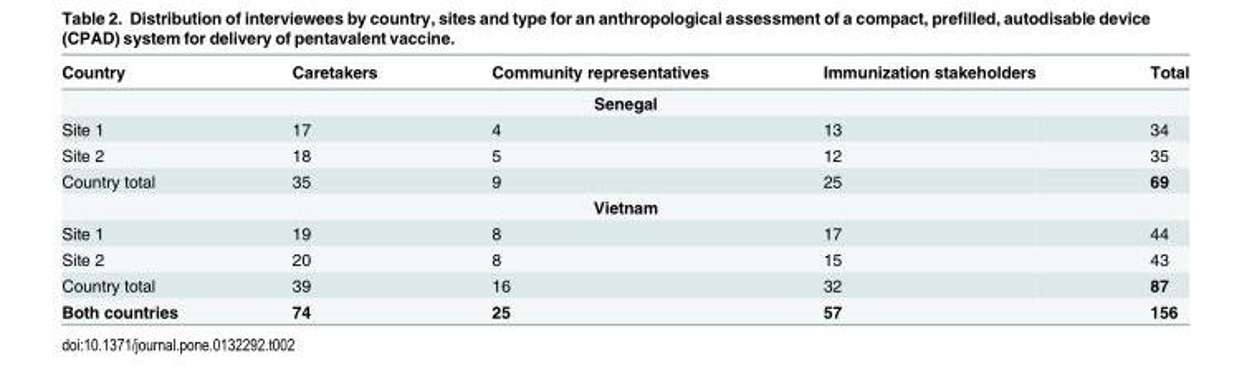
<table><thead><tr><td>Country</td><td>Caretakers</td><td>Community representatives</td><td>Immunization stakeholders</td><td>Total</td></tr></thead><tbody><tr><td colspan="5">Senegal</td></tr><tr><td>Site 1</td><td>17</td><td>4</td><td>13</td><td>34</td></tr><tr><td>Site 2</td><td>18</td><td>5</td><td>12</td><td>35</td></tr><tr><td>Country total</td><td>35</td><td>9</td><td>25</td><td>69</td></tr><tr><td colspan="5">Vietnam</td></tr><tr><td>Site 1</td><td>19</td><td>8</td><td>17</td><td>44</td></tr><tr><td>Site 2</td><td>20</td><td>8</td><td>15</td><td>43</td></tr><tr><td>Country total</td><td>39</td><td>16</td><td>32</td><td>87</td></tr><tr><td>Both countries</td><td>74</td><td>25</td><td>57</td><td>156</td></tr></tbody></table>